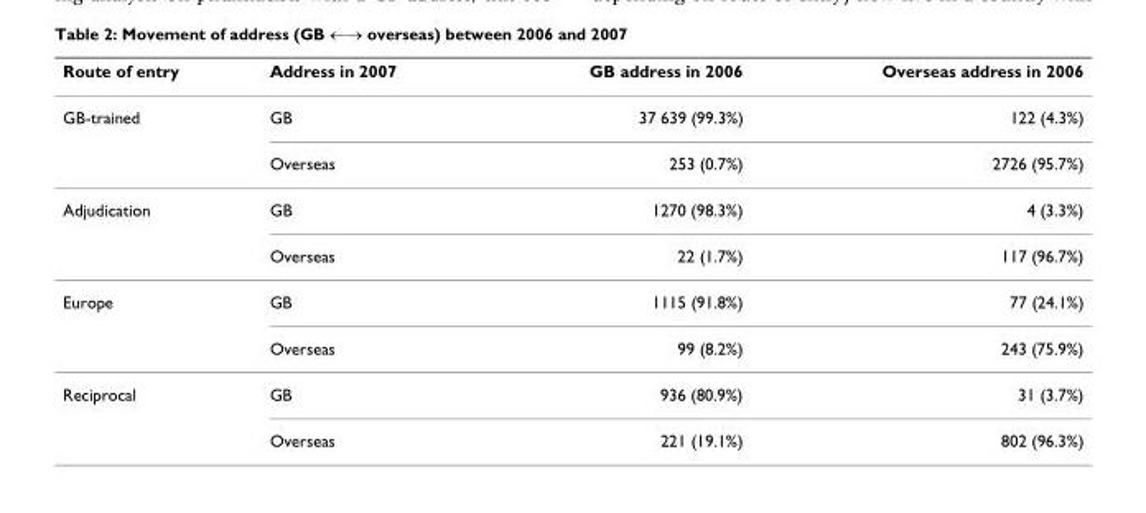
<table><thead><tr><td>Route of entry</td><td>Address in 2007</td><td>GB address in 2006</td><td>Overseas address in 2006</td></tr></thead><tbody><tr><td rowspan="2">GB-trained</td><td>GB</td><td>37 639 (99.3%)</td><td>122 (4.3%)</td></tr><tr><td>Overseas</td><td>253 (0.7%)</td><td>2726 (95.7%)</td></tr><tr><td rowspan="2">Adjudication</td><td>GB</td><td>1270 (98.3%)</td><td>4 (3.3%)</td></tr><tr><td>Overseas</td><td>22 (1.7%)</td><td>117 (96.7%)</td></tr><tr><td rowspan="2">Europe</td><td>GB</td><td>1115 (91.8%)</td><td>77 (24.1%)</td></tr><tr><td>Overseas</td><td>99 (8.2%)</td><td>243 (75.9%)</td></tr><tr><td rowspan="2">Reciprocal</td><td>GB</td><td>936 (80.9%)</td><td>31 (3.7%)</td></tr><tr><td>Overseas</td><td>221 (19.1%)</td><td>802 (96.3%)</td></tr></tbody></table>